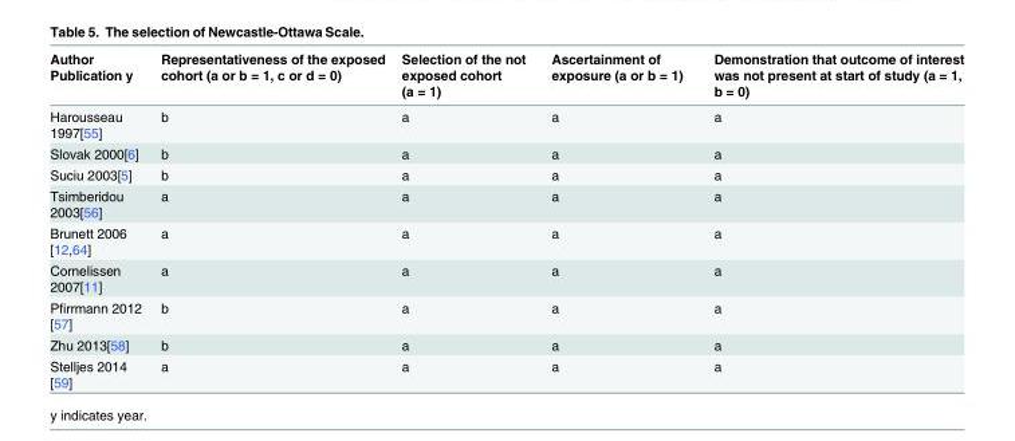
<table><thead><tr><td>Author Publication y</td><td>Representativeness of the exposed cohort (a or b = 1, c or d = 0)</td><td>Selection of the not exposed cohort (a = 1)</td><td>Ascertainment of exposure (a or b = 1)</td><td>Demonstration that outcome of interest was not present at start of study (a = 1, b = 0)</td></tr></thead><tbody><tr><td>Harousseau 1997[55]</td><td>b</td><td>a</td><td>a</td><td>a</td></tr><tr><td>Slovak 2000[6]</td><td>b</td><td>a</td><td>a</td><td>a</td></tr><tr><td>Suciu 2003[5]</td><td>b</td><td>a</td><td>a</td><td>a</td></tr><tr><td>Tsimberidou 2003[56]</td><td>a</td><td>a</td><td>a</td><td>a</td></tr><tr><td>Brunett 2006 [12,64]</td><td>a</td><td>a</td><td>a</td><td>a</td></tr><tr><td>Cornelissen 2007[11]</td><td>a</td><td>a</td><td>a</td><td>a</td></tr><tr><td>Pfirrmann 2012 [57]</td><td>b</td><td>a</td><td>a</td><td>a</td></tr><tr><td>Zhu 2013[58]</td><td>b</td><td>a</td><td>a</td><td>a</td></tr><tr><td>Stelljes 2014 [59]</td><td>a</td><td>a</td><td>a</td><td>a</td></tr></tbody></table>